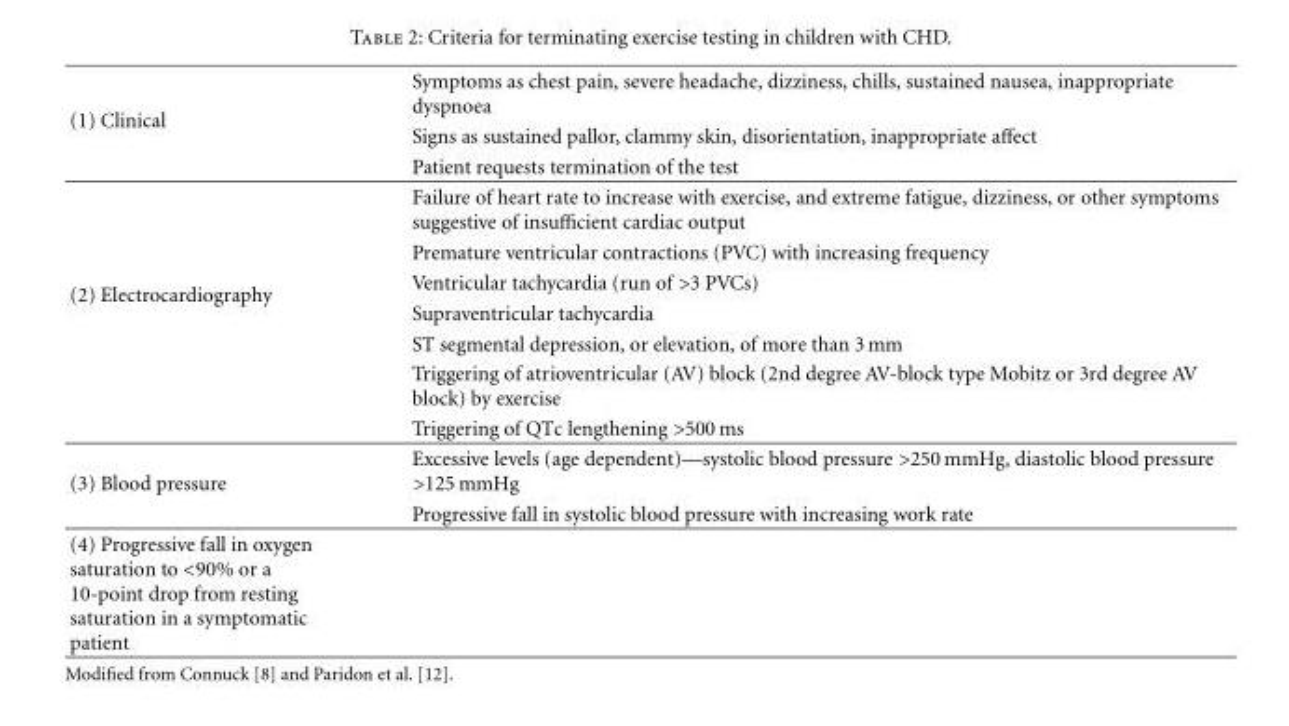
<table><tbody><tr><td rowspan="3">(1) Clinical</td><td>Symptoms as chest pain, severe headache, dizziness, chills, sustained nausea, inappropriate dyspnoea</td></tr><tr><td>Signs as sustained pallor, clammy skin, disorientation, inappropriate affect</td></tr><tr><td>Patient requests termination of the test</td></tr><tr><td rowspan="7">(2) Electrocardiography</td><td>Failure of heart rate to increase with exercise, and extreme fatigue, dizziness, or other symptoms suggestive of insufficient cardiac output</td></tr><tr><td>Premature ventricular contractions (PVC) with increasing frequency</td></tr><tr><td>Ventricular tachycardia (run of &gt;3 PVCs)</td></tr><tr><td>Supraventricular tachycardia</td></tr><tr><td>ST segmental depression, or elevation, of more than 3 mm</td></tr><tr><td>Triggering of atrioventricular (AV) block (2nd degree AV-block type Mobitz or 3rd degree AV block) by exercise</td></tr><tr><td>Triggering of QTc lengthening &gt;500 ms</td></tr><tr><td rowspan="2">(3) Blood pressure</td><td>Excessive levels (age dependent)—systolic blood pressure &gt;250 mmHg, diastolic blood pressure &gt;125 mmHg</td></tr><tr><td>Progressive fall in systolic blood pressure with increasing work rate</td></tr><tr><td>(4) Progressive fall in oxygen saturation to &lt;90% or a 10-point drop from resting saturation in a symptomatic patient</td><td></td></tr></tbody></table>